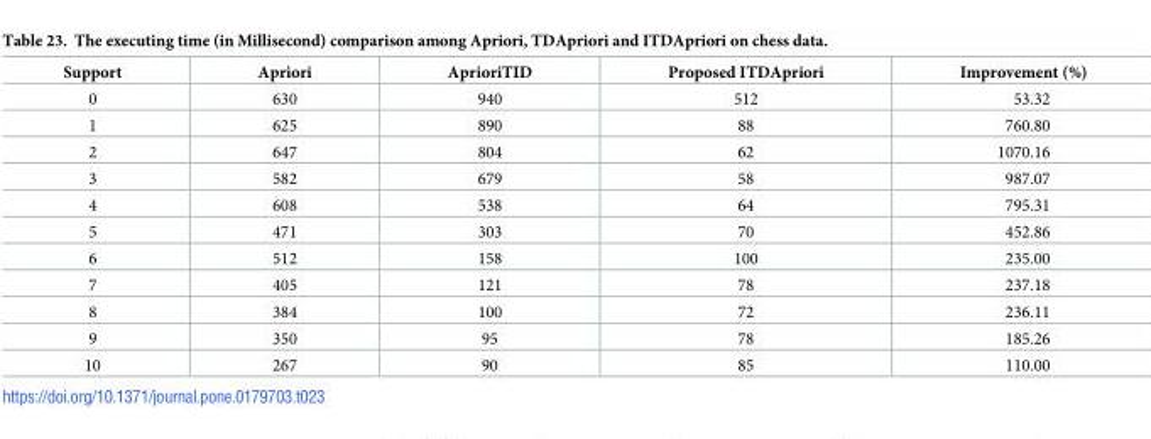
<table><thead><tr><td>Support</td><td>Apriori</td><td>AprioriTID</td><td>Proposed ITDApriori</td><td>Improvement (%)</td></tr></thead><tbody><tr><td>0</td><td>630</td><td>940</td><td>512</td><td>53.32</td></tr><tr><td>1</td><td>625</td><td>890</td><td>88</td><td>760.80</td></tr><tr><td>2</td><td>647</td><td>804</td><td>62</td><td>1070.16</td></tr><tr><td>3</td><td>582</td><td>679</td><td>58</td><td>987.07</td></tr><tr><td>4</td><td>608</td><td>538</td><td>64</td><td>795.31</td></tr><tr><td>5</td><td>471</td><td>303</td><td>70</td><td>452.86</td></tr><tr><td>6</td><td>512</td><td>158</td><td>100</td><td>235.00</td></tr><tr><td>7</td><td>405</td><td>121</td><td>78</td><td>237.18</td></tr><tr><td>8</td><td>384</td><td>100</td><td>72</td><td>236.11</td></tr><tr><td>9</td><td>350</td><td>95</td><td>78</td><td>185.26</td></tr><tr><td>10</td><td>267</td><td>90</td><td>85</td><td>110.00</td></tr></tbody></table>